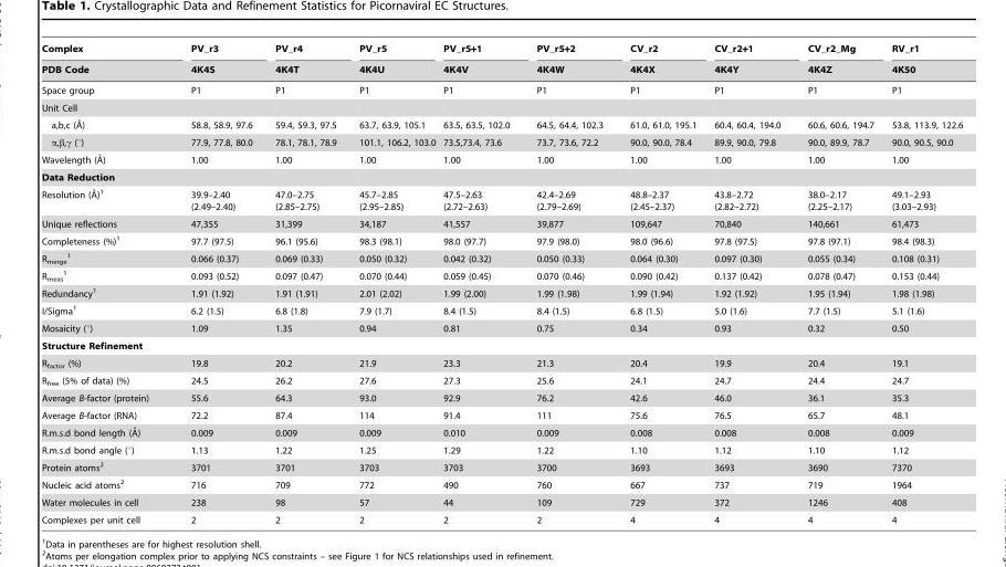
<table><thead><tr><td rowspan="2">Complex PDB Code</td><td rowspan="2">PV_r3 4K4S</td><td rowspan="2">PV_r4 4K4T</td><td rowspan="2">PV_r5 4K4U</td><td rowspan="2">PV_r5+1 4K4V</td><td rowspan="2">PV_r5+2 4K4W</td><td rowspan="2">CV_r2 4K4X</td><td rowspan="2">CV_r2+1 4K4Y</td><td rowspan="2">CV_r2_Mg 4K4Z</td><td rowspan="2">RV_r1 4K50</td></tr><tr></tr></thead><tbody><tr><td>Space group</td><td>P1</td><td>P1</td><td>P1</td><td>P1</td><td>P1</td><td>P1</td><td>P1</td><td>P1</td><td>P1</td></tr><tr><td colspan="10">Unit Cell</td></tr><tr><td>a,b,c (A˚)</td><td>58.8, 58.9, 97.6</td><td>59.4, 59.3, 97.5</td><td>63.7, 63.9, 105.1</td><td>63.5, 63.5, 102.0</td><td>64.5, 64.4, 102.3</td><td>61.0, 61.0, 195.1</td><td>60.4, 60.4, 194.0</td><td>60.6, 60.6, 194.7</td><td>53.8, 113.9, 122.6</td></tr><tr><td>α,β,γ (°)</td><td>77.9, 77.8, 80.0</td><td>78.1, 78.1, 78.9</td><td>101.1, 106.2, 103.0</td><td>73.5,73.4, 73.6</td><td>73.7, 73.6, 72.2</td><td>90.0, 90.0, 78.4</td><td>89.9, 90.0, 79.8</td><td>90.0, 89.9, 78.7</td><td>90.0, 90.5, 90.0</td></tr><tr><td>Wavelength (A˚)</td><td>1.00</td><td>1.00</td><td>1.00</td><td>1.00</td><td>1.00</td><td>1.00</td><td>1.00</td><td>1.00</td><td>1.00</td></tr><tr><td colspan="10">Data Reduction</td></tr><tr><td>Resolution (A˚)1</td><td>39.9–2.40 (2.49–2.40)</td><td>47.0–2.75 (2.85–2.75)</td><td>45.7–2.85 (2.95–2.85)</td><td>47.5–2.63 (2.72–2.63)</td><td>42.4–2.69 (2.79–2.69)</td><td>48.8–2.37 (2.45–2.37)</td><td>43.8–2.72 (2.82–2.72)</td><td>38.0–2.17 (2.25–2.17)</td><td>49.1–2.93 (3.03–2.93)</td></tr><tr><td>Unique reflections</td><td>47,355</td><td>31,399</td><td>34,187</td><td>41,557</td><td>39,877</td><td>109,647</td><td>70,840</td><td>140,661</td><td>61,473</td></tr><tr><td>Completeness (%)<sup>1</sup></td><td>97.7 (97.5)</td><td>96.1 (95.6)</td><td>98.3 (98.1)</td><td>98.0 (97.7)</td><td>97.9 (98.0)</td><td>98.0 (96.6)</td><td>97.8 (97.5)</td><td>97.8 (97.1)</td><td>98.4 (98.3)</td></tr><tr><td>R<sub>merge</sub> 1</td><td>0.066 (0.37)</td><td>0.069 (0.33)</td><td>0.050 (0.32)</td><td>0.042 (0.32)</td><td>0.050 (0.33)</td><td>0.064 (0.30)</td><td>0.097 (0.30)</td><td>0.055 (0.34)</td><td>0.108 (0.31)</td></tr><tr><td>R<sub>meas</sub> 1</td><td>0.093 (0.52)</td><td>0.097 (0.47)</td><td>0.070 (0.44)</td><td>0.059 (0.45)</td><td>0.070 (0.46)</td><td>0.090 (0.42)</td><td>0.137 (0.42)</td><td>0.078 (0.47)</td><td>0.153 (0.44)</td></tr><tr><td>Redundancy<sup>1</sup></td><td>1.91 (1.92)</td><td>1.91 (1.91)</td><td>2.01 (2.02)</td><td>1.99 (2.00)</td><td>1.99 (1.98)</td><td>1.99 (1.94)</td><td>1.92 (1.92)</td><td>1.95 (1.94)</td><td>1.98 (1.98)</td></tr><tr><td>I/Sigma<sup>1</sup></td><td>6.2 (1.5)</td><td>6.8 (1.8)</td><td>7.9 (1.7)</td><td>8.4 (1.5)</td><td>8.4 (1.5)</td><td>6.8 (1.5)</td><td>5.0 (1.6)</td><td>7.7 (1.5)</td><td>5.1 (1.6)</td></tr><tr><td>Mosaicity (°)</td><td>1.09</td><td>1.35</td><td>0.94</td><td>0.81</td><td>0.75</td><td>0.34</td><td>0.93</td><td>0.32</td><td>0.50</td></tr><tr><td colspan="10">Structure Refinement</td></tr><tr><td>R<sub>factor</sub> (%)</td><td>19.8</td><td>20.2</td><td>21.9</td><td>23.3</td><td>21.3</td><td>20.4</td><td>19.9</td><td>20.4</td><td>19.1</td></tr><tr><td>R<sub>free</sub> (5% of data) (%)</td><td>24.5</td><td>26.2</td><td>27.6</td><td>27.3</td><td>25.6</td><td>24.1</td><td>24.7</td><td>24.4</td><td>24.7</td></tr><tr><td>Average B-factor (protein)</td><td>55.6</td><td>64.3</td><td>93.0</td><td>92.9</td><td>76.2</td><td>42.6</td><td>46.0</td><td>36.1</td><td>35.3</td></tr><tr><td>Average B-factor (RNA)</td><td>72.2</td><td>87.4</td><td>114</td><td>91.4</td><td>111</td><td>75.6</td><td>76.5</td><td>65.7</td><td>48.1</td></tr><tr><td>R.m.s.d bond length (A˚)</td><td>0.009</td><td>0.009</td><td>0.009</td><td>0.010</td><td>0.009</td><td>0.008</td><td>0.008</td><td>0.008</td><td>0.009</td></tr><tr><td>R.m.s.d bond angle (°)</td><td>1.13</td><td>1.22</td><td>1.25</td><td>1.29</td><td>1.22</td><td>1.10</td><td>1.12</td><td>1.10</td><td>1.12</td></tr><tr><td>Protein atoms<sup>2</sup></td><td>3701</td><td>3701</td><td>3703</td><td>3703</td><td>3700</td><td>3693</td><td>3693</td><td>3690</td><td>7370</td></tr><tr><td>Nucleic acid atoms<sup>2</sup></td><td>716</td><td>709</td><td>772</td><td>490</td><td>760</td><td>667</td><td>737</td><td>719</td><td>1964</td></tr><tr><td>Water molecules in cell</td><td>238</td><td>98</td><td>57</td><td>44</td><td>109</td><td>729</td><td>372</td><td>1246</td><td>408</td></tr><tr><td>Complexes per unit cell</td><td>2</td><td>2</td><td>2</td><td>2</td><td>2</td><td>4</td><td>4</td><td>4</td><td>4</td></tr></tbody></table>